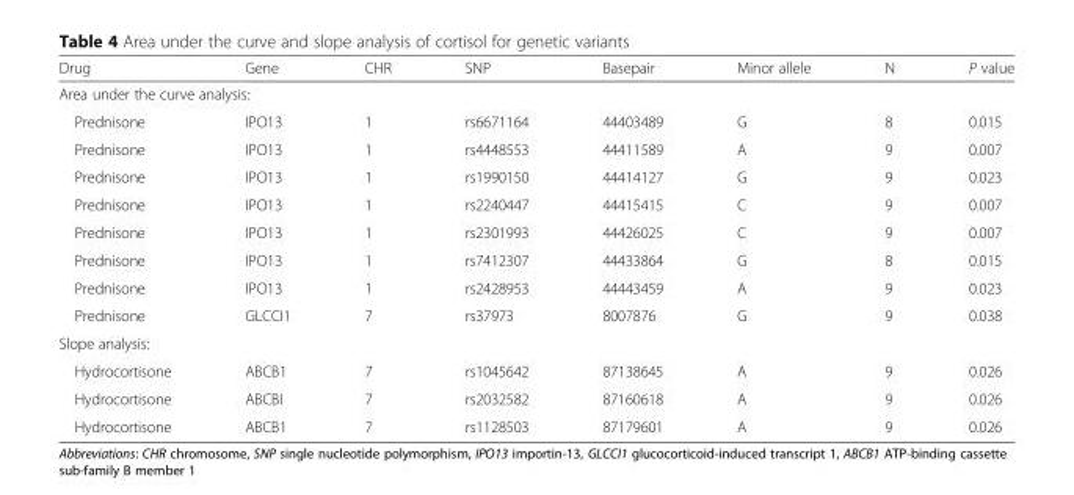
<table><thead><tr><td>Drug</td><td>Gene</td><td>CHR</td><td>SNP</td><td>Basepair</td><td>Minor allele</td><td>N</td><td>P value</td></tr></thead><tbody><tr><td colspan="8">Area under the curve analysis:</td></tr><tr><td>Prednisone</td><td>IPO13</td><td>1</td><td>rs6671164</td><td>44403489</td><td>G</td><td>8</td><td>0.015</td></tr><tr><td>Prednisone</td><td>IPO13</td><td>1</td><td>rs4448553</td><td>44411589</td><td>A</td><td>9</td><td>0.007</td></tr><tr><td>Prednisone</td><td>IPO13</td><td>1</td><td>rs1990150</td><td>44414127</td><td>G</td><td>9</td><td>0.023</td></tr><tr><td>Prednisone</td><td>IPO13</td><td>1</td><td>rs2240447</td><td>44415415</td><td>C</td><td>9</td><td>0.007</td></tr><tr><td>Prednisone</td><td>IPO13</td><td>1</td><td>rs2301993</td><td>44426025</td><td>C</td><td>9</td><td>0.007</td></tr><tr><td>Prednisone</td><td>IPO13</td><td>1</td><td>rs7412307</td><td>44433864</td><td>G</td><td>8</td><td>0.015</td></tr><tr><td>Prednisone</td><td>IPO13</td><td>1</td><td>rs2428953</td><td>44443459</td><td>A</td><td>9</td><td>0.023</td></tr><tr><td>Prednisone</td><td>GLCCI1</td><td>7</td><td>rs37973</td><td>8007876</td><td>G</td><td>9</td><td>0.038</td></tr><tr><td colspan="8">Slope analysis:</td></tr><tr><td>Hydrocortisone</td><td>ABCB1</td><td>7</td><td>rs1045642</td><td>87138645</td><td>A</td><td>9</td><td>0.026</td></tr><tr><td>Hydrocortisone</td><td>ABCBI</td><td>7</td><td>rs2032582</td><td>87160618</td><td>A</td><td>9</td><td>0.026</td></tr><tr><td>Hydrocortisone</td><td>ABCB1</td><td>7</td><td>rs1128503</td><td>87179601</td><td>A</td><td>9</td><td>0.026</td></tr></tbody></table>